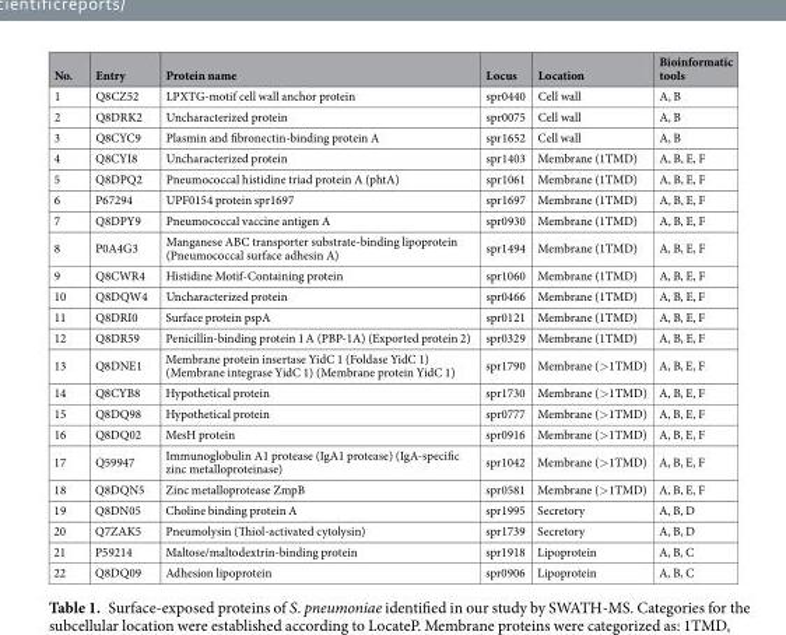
<table><thead><tr><td>No.</td><td>Entry</td><td>Protein name</td><td>Locus</td><td>Location</td><td>Bioinformatic tools</td></tr></thead><tbody><tr><td>1</td><td>Q8CZ52</td><td>LPXTG-motif cell wall anchor protein</td><td>spr0440</td><td>Cell wall</td><td>A, B</td></tr><tr><td>2</td><td>Q8DRK2</td><td>Uncharacterized protein</td><td>spr0075</td><td>Cell wall</td><td>A, B</td></tr><tr><td>3</td><td>Q8CYC9</td><td>Plasmin and fibronectin-binding protein A</td><td>spr1652</td><td>Cell wall</td><td>A, B</td></tr><tr><td>4</td><td>Q8CYI8</td><td>Uncharacterized protein</td><td>spr1403</td><td>Membrane (1TMD)</td><td>A, B, E, F</td></tr><tr><td>5</td><td>Q8DPQ2</td><td>Pneumococcal histidine triad protein A (phtA)</td><td>spr1061</td><td>Membrane (1TMD)</td><td>A, B, E, F</td></tr><tr><td>6</td><td>P67294</td><td>UPF0154 protein spr1697</td><td>spr1697</td><td>Membrane (1TMD)</td><td>A, B, E, F</td></tr><tr><td>7</td><td>Q8DPY9</td><td>Pneumococcal vaccine antigen A</td><td>spr0930</td><td>Membrane (1TMD)</td><td>A, B, E, F</td></tr><tr><td>8</td><td>P0A4G3</td><td>Manganese ABC transporter substrate-binding lipoprotein (Pneumococcal surface adhesin A)</td><td>spr1494</td><td>Membrane (1TMD)</td><td>A, B, E, F</td></tr><tr><td>9</td><td>Q8CWR4</td><td>Histidine Motif-Containing protein</td><td>spr1060</td><td>Membrane (1TMD)</td><td>A, B, E, F</td></tr><tr><td>10</td><td>Q8DQW4</td><td>Uncharacterized protein</td><td>spr0466</td><td>Membrane (1TMD)</td><td>A, B, E, F</td></tr><tr><td>11</td><td>Q8DRI0</td><td>Surface protein pspA</td><td>spr0121</td><td>Membrane (1TMD)</td><td>A, B, E, F</td></tr><tr><td>12</td><td>Q8DR59</td><td>Penicillin-binding protein 1 A (PBP-1A) (Exported protein 2)</td><td>spr0329</td><td>Membrane (1TMD)</td><td>A, B, E, F</td></tr><tr><td>13</td><td>Q8DNE1</td><td>Membrane protein insertase YidC 1 (Foldase YidC 1) (Membrane integrase YidC 1) (Membrane protein YidC 1)</td><td>spr1790</td><td>Membrane (&gt;1TMD)</td><td>A, B, E, F</td></tr><tr><td>14</td><td>Q8CYB8</td><td>Hypothetical protein</td><td>spr1730</td><td>Membrane (&gt;1TMD)</td><td>A, B, E, F</td></tr><tr><td>15</td><td>Q8DQ98</td><td>Hypothetical protein</td><td>spr0777</td><td>Membrane (&gt;1TMD)</td><td>A, B, E, F</td></tr><tr><td>16</td><td>Q8DQ02</td><td>MesH protein</td><td>spr0916</td><td>Membrane (&gt;1TMD)</td><td>A, B, E, F</td></tr><tr><td>17</td><td>Q59947</td><td>Immunoglobulin A1 protease (IgA1 protease) (IgA-specific zinc metalloproteinase)</td><td>spr1042</td><td>Membrane (&gt;1TMD)</td><td>A, B, E, F</td></tr><tr><td>18</td><td>Q8DQN5</td><td>Zinc metalloprotease ZmpB</td><td>spr0581</td><td>Membrane (&gt;1TMD)</td><td>A, B, E, F</td></tr><tr><td>19</td><td>Q8DN05</td><td>Choline binding protein A</td><td>spr1995</td><td>Secretory</td><td>A, B, D</td></tr><tr><td>20</td><td>Q7ZAK5</td><td>Pneumolysin (Thiol-activated cytolysin)</td><td>spr1739</td><td>Secretory</td><td>A, B, D</td></tr><tr><td>21</td><td>P59214</td><td>Maltose/maltodextrin-binding protein</td><td>spr1918</td><td>Lipoprotein</td><td>A, B, C</td></tr><tr><td>22</td><td>Q8DQ09</td><td>Adhesion lipoprotein</td><td>spr0906</td><td>Lipoprotein</td><td>A, B, C</td></tr></tbody></table>